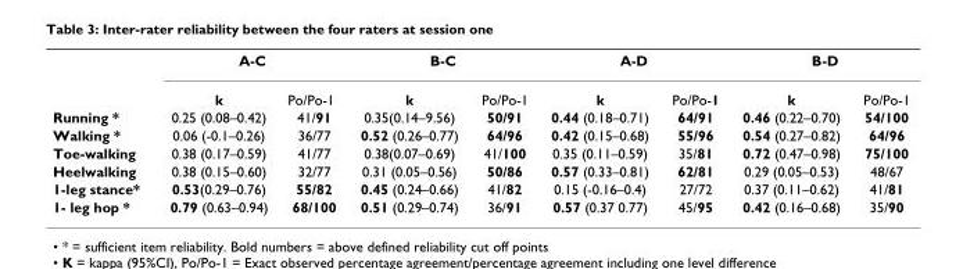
<table><thead><tr><td rowspan="2"></td><td colspan="2">A-C</td><td colspan="2">B-C</td><td colspan="2">A-D</td><td colspan="2">B-D</td></tr><tr><td>k</td><td>Po/Po-1</td><td>k</td><td>Po/Po-1</td><td>k</td><td>Po/Po-1</td><td>k</td><td>Po/Po-1</td></tr></thead><tbody><tr><td>Running *</td><td>0.25 (0.08–0.42)</td><td>41/91</td><td>0.35(0.14–9.56)</td><td>50/91</td><td>0.44 (0.18–0.71)</td><td>64/91</td><td>0.46 (0.22–0.70)</td><td>54/100</td></tr><tr><td>Walking *</td><td>0.06 (-0.1–0.26)</td><td>36/77</td><td>0.52 (0.26–0.77)</td><td>64/96</td><td>0.42 (0.15–0.68)</td><td>55/96</td><td>0.54 (0.27–0.82)</td><td>64/96</td></tr><tr><td>Toe-walking</td><td>0.38 (0.17–0.59)</td><td>41/77</td><td>0.38(0.07–0.69)</td><td>41/100</td><td>0.35 (0.11–0.59)</td><td>35/81</td><td>0.72 (0.47–0.98)</td><td>75/100</td></tr><tr><td>Heelwalking</td><td>0.38 (0.15–0.60)</td><td>32/77</td><td>0.31 (0.05–0.56)</td><td>50/86</td><td>0.57 (0.33–0.81)</td><td>62/81</td><td>0.29 (0.05–0.53)</td><td>48/67</td></tr><tr><td>1-leg stance*</td><td>0.53(0.29–0.76)</td><td>55/82</td><td>0.45 (0.24–0.66)</td><td>41/82</td><td>0.15 (-0.16–0.4)</td><td>27/72</td><td>0.37 (0.11–0.62)</td><td>41/81</td></tr><tr><td>1- leg hop *</td><td>0.79 (0.63–0.94)</td><td>68/100</td><td>0.51 (0.29–0.74)</td><td>36/91</td><td>0.57 (0.37 0.77)</td><td>45/95</td><td>0.42 (0.16–0.68)</td><td>35/90</td></tr></tbody></table>